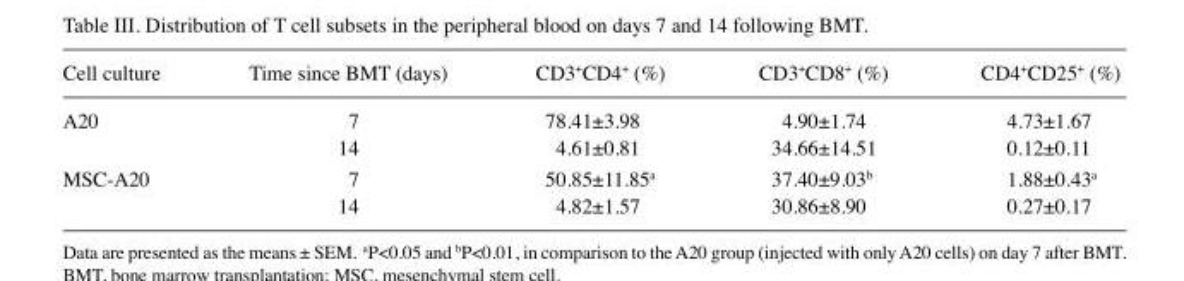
<table><thead><tr><td>Cell culture</td><td>Time since BMT (days)</td><td>CD3<sup>+</sup>CD4<sup>+</sup> (%)</td><td>CD3<sup>+</sup>CD8<sup>+</sup> (%)</td><td>CD4<sup>+</sup>CD25<sup>+</sup> (%)</td></tr></thead><tbody><tr><td rowspan="2">A20</td><td>7</td><td>78.41±3.98</td><td>4.90±1.74</td><td>4.73±1.67</td></tr><tr><td>14</td><td>4.61±0.81</td><td>34.66±14.51</td><td>0.12±0.11</td></tr><tr><td rowspan="2">MSC-A20</td><td>7</td><td>50.85±11.85<sup>a</sup></td><td>37.40±9.03<sup>b</sup></td><td>1.88±0.43<sup>a</sup></td></tr><tr><td>14</td><td>4.82±1.57</td><td>30.86±8.90</td><td>0.27±0.17</td></tr></tbody></table>